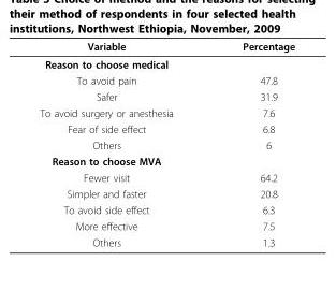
<table><thead><tr><td>Variable</td><td>Percentage</td></tr></thead><tbody><tr><td colspan="2">Reason to choose medical</td></tr><tr><td>To avoid pain</td><td>47.8</td></tr><tr><td>Safer</td><td>31.9</td></tr><tr><td>To avoid surgery or anesthesia</td><td>7.6</td></tr><tr><td>Fear of side effect</td><td>6.8</td></tr><tr><td>Others</td><td>6</td></tr><tr><td colspan="2">Reason to choose MVA</td></tr><tr><td>Fewer visit</td><td>64.2</td></tr><tr><td>Simpler and faster</td><td>20.8</td></tr><tr><td>To avoid side effect</td><td>6.3</td></tr><tr><td>More effective</td><td>7.5</td></tr><tr><td>Others</td><td>1.3</td></tr></tbody></table>